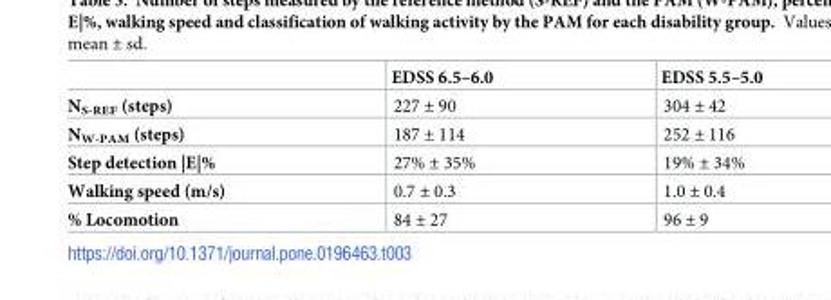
<table><thead><tr><td></td><td>EDSS 6.5–6.0</td><td>EDSS 5.5–5.0</td></tr></thead><tbody><tr><td>N<sub>S-REF</sub> (steps)</td><td>227 ± 90</td><td>304 ± 42</td></tr><tr><td>N<sub>W-PAM</sub> (steps)</td><td>187 ± 114</td><td>252 ± 116</td></tr><tr><td>Step detection |E|%</td><td>27% ± 35%</td><td>19% ± 34%</td></tr><tr><td>Walking speed (m/s)</td><td>0.7 ± 0.3</td><td>1.0 ± 0.4</td></tr><tr><td>% Locomotion</td><td>84 ± 27</td><td>96 ± 9</td></tr></tbody></table>